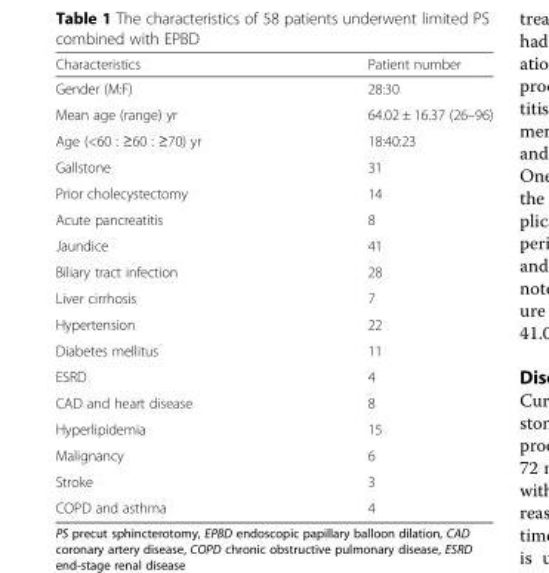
<table><thead><tr><td>Characteristics</td><td>Patient number</td></tr></thead><tbody><tr><td>Gender (M:F)</td><td>28:30</td></tr><tr><td>Mean age (range) yr</td><td>64.02 ± 16.37 (26–96)</td></tr><tr><td>Age (&lt;60 : ≥60 : ≥70) yr</td><td>18:40:23</td></tr><tr><td>Gallstone</td><td>31</td></tr><tr><td>Prior cholecystectomy</td><td>14</td></tr><tr><td>Acute pancreatitis</td><td>8</td></tr><tr><td>Jaundice</td><td>41</td></tr><tr><td>Biliary tract infection</td><td>28</td></tr><tr><td>Liver cirrhosis</td><td>7</td></tr><tr><td>Hypertension</td><td>22</td></tr><tr><td>Diabetes mellitus</td><td>11</td></tr><tr><td>ESRD</td><td>4</td></tr><tr><td>CAD and heart disease</td><td>8</td></tr><tr><td>Hyperlipidemia</td><td>15</td></tr><tr><td>Malignancy</td><td>6</td></tr><tr><td>Stroke</td><td>3</td></tr><tr><td>COPD and asthma</td><td>4</td></tr></tbody></table>